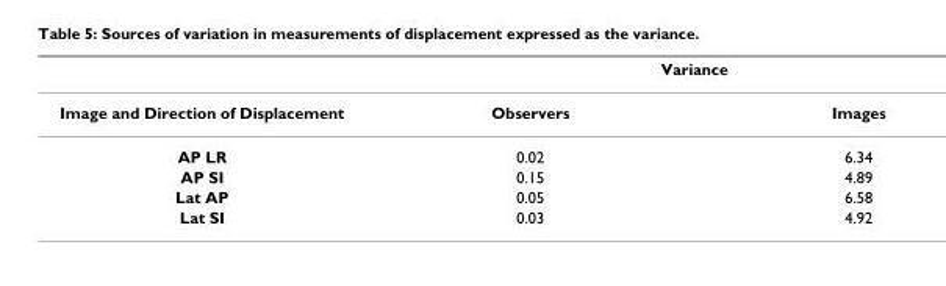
<table><thead><tr><td rowspan="2">Image and Direction of Displacement</td><td colspan="2">Variance</td></tr><tr><td>Observers</td><td>Images</td></tr></thead><tbody><tr><td>AP LR</td><td>0.02</td><td>6.34</td></tr><tr><td>AP SI</td><td>0.15</td><td>4.89</td></tr><tr><td>Lat AP</td><td>0.05</td><td>6.58</td></tr><tr><td>Lat SI</td><td>0.03</td><td>4.92</td></tr></tbody></table>